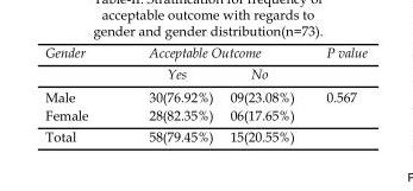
<table><thead><tr><td rowspan="2">Gender</td><td colspan="2">Acceptable Outcome</td><td rowspan="2">P value</td></tr><tr><td>Yes</td><td>No</td></tr></thead><tbody><tr><td>Male</td><td>30(76.92%)</td><td>09(23.08%)</td><td>0.567</td></tr><tr><td>Female</td><td>28(82.35%)</td><td>06(17.65%)</td><td></td></tr><tr><td>Total</td><td>58(79.45%)</td><td>15(20.55%)</td><td></td></tr></tbody></table>